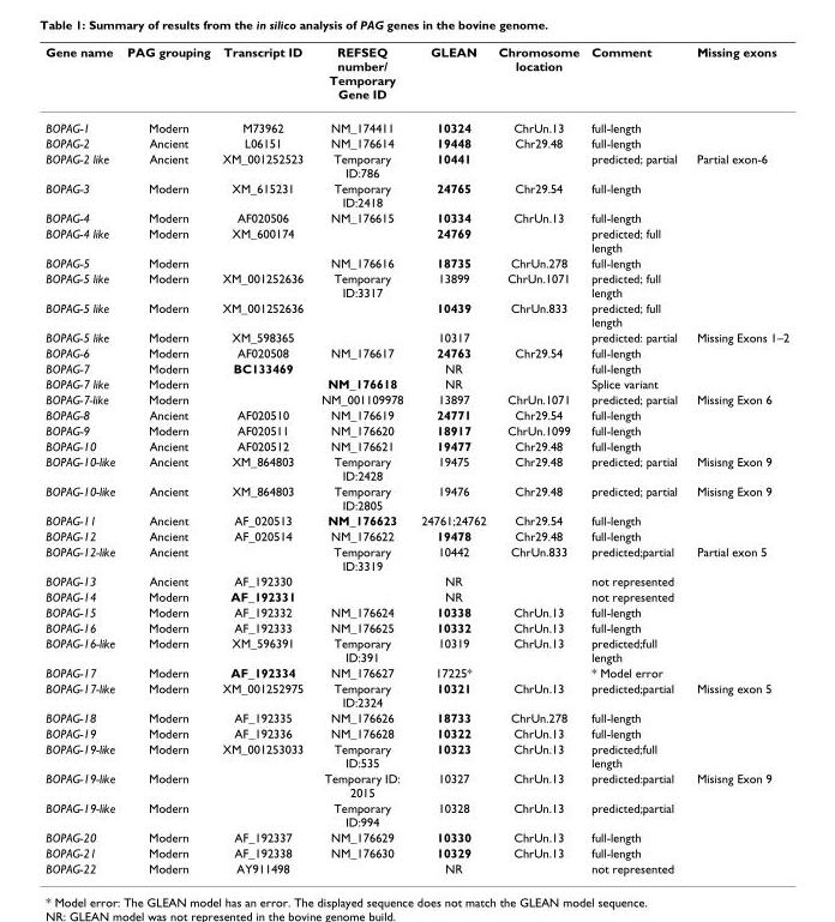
<table><thead><tr><td>Gene name</td><td>PAG grouping</td><td>Transcript ID</td><td>REFSEQ number/ Temporary Gene ID</td><td>GLEAN</td><td>Chromosome location</td><td>Comment</td><td>Missing exons</td></tr></thead><tbody><tr><td>BOPAG-1</td><td>Modern</td><td>M73962</td><td>NM_174411</td><td>10324</td><td>ChrUn.13</td><td>full-length</td><td></td></tr><tr><td>BOPAG-2</td><td>Ancient</td><td>L06151</td><td>NM_176614</td><td>19448</td><td>Chr29.48</td><td>full-length</td><td></td></tr><tr><td>BOPAG-2 like</td><td>Ancient</td><td>XM_001252523</td><td>Temporary ID:786</td><td>10441</td><td></td><td>predicted; partial</td><td>Partial exon-6</td></tr><tr><td>BOPAG-3</td><td>Modern</td><td>XM_615231</td><td>Temporary ID:2418</td><td>24765</td><td>Chr29.54</td><td>full-length</td><td></td></tr><tr><td>BOPAG-4</td><td>Modern</td><td>AF020506</td><td>NM_176615</td><td>10334</td><td>ChrUn.13</td><td>full-length</td><td></td></tr><tr><td>BOPAG-4 like</td><td>Modern</td><td>XM_600174</td><td></td><td>24769</td><td></td><td>predicted; full length</td><td></td></tr><tr><td>BOPAG-5</td><td>Modern</td><td></td><td>NM_176616</td><td>18735</td><td>ChrUn.278</td><td>full-length</td><td></td></tr><tr><td>BOPAG-5 like</td><td>Modern</td><td>XM_001252636</td><td>Temporary ID:3317</td><td>13899</td><td>ChrUn.1071</td><td>predicted; full length</td><td></td></tr><tr><td>BOPAG-5 like</td><td>Modern</td><td>XM_001252636</td><td></td><td>10439</td><td>ChrUn.833</td><td>predicted; full length</td><td></td></tr><tr><td>BOPAG-5 like</td><td>Modern</td><td>XM_598365</td><td></td><td>10317</td><td></td><td>predicted: partial</td><td>Missing Exons 1–2</td></tr><tr><td>BOPAG-6</td><td>Modern</td><td>AF020508</td><td>NM_176617</td><td>24763</td><td>Chr29.54</td><td>full-length</td><td></td></tr><tr><td>BOPAG-7</td><td>Modern</td><td>BC133469</td><td></td><td>NR</td><td></td><td>full-length</td><td></td></tr><tr><td>BOPAG-7 like</td><td>Modern</td><td></td><td>NM_176618</td><td>NR</td><td></td><td>Splice variant</td><td></td></tr><tr><td>BOPAG-7-like</td><td>Modern</td><td></td><td>NM_001109978</td><td>13897</td><td>ChrUn.1071</td><td>predicted; partial</td><td>Missing Exon 6</td></tr><tr><td>BOPAG-8</td><td>Ancient</td><td>AF020510</td><td>NM_176619</td><td>24771</td><td>Chr29.54</td><td>full-length</td><td></td></tr><tr><td>BOPAG-9</td><td>Modern</td><td>AF020511</td><td>NM_176620</td><td>18917</td><td>ChrUn.1099</td><td>full-length</td><td></td></tr><tr><td>BOPAG-10</td><td>Ancient</td><td>AF020512</td><td>NM_176621</td><td>19477</td><td>Chr29.48</td><td>full-length</td><td></td></tr><tr><td>BOPAG-10-like</td><td>Ancient</td><td>XM_864803</td><td>Temporary ID:2428</td><td>19475</td><td>Chr29.48</td><td>predicted; partial</td><td>Misisng Exon 9</td></tr><tr><td>BOPAG-10-like</td><td>Ancient</td><td>XM_864803</td><td>Temporary ID:2805</td><td>19476</td><td>Chr29.48</td><td>predicted; partial</td><td>Misisng Exon 9</td></tr><tr><td>BOPAG-11</td><td>Ancient</td><td>AF_020513</td><td>NM_176623</td><td>24761;24762</td><td>Chr29.54</td><td>full-length</td><td></td></tr><tr><td>BOPAG-12</td><td>Ancient</td><td>AF_020514</td><td>NM_176622</td><td>19478</td><td>Chr29.48</td><td>full-length</td><td></td></tr><tr><td>BOPAG-12-like</td><td>Ancient</td><td></td><td>Temporary ID:3319</td><td>10442</td><td>ChrUn.833</td><td>predicted;partial</td><td>Partial exon 5</td></tr><tr><td>BOPAG-13</td><td>Ancient</td><td>AF_192330</td><td></td><td>NR</td><td></td><td>not represented</td><td></td></tr><tr><td>BOPAG-14</td><td>Modern</td><td>AF_192331</td><td></td><td>NR</td><td></td><td>not represented</td><td></td></tr><tr><td>BOPAG-15</td><td>Modern</td><td>AF_192332</td><td>NM_176624</td><td>10338</td><td>ChrUn.13</td><td>full-length</td><td></td></tr><tr><td>BOPAG-16</td><td>Modern</td><td>AF_192333</td><td>NM_176625</td><td>10332</td><td>ChrUn.13</td><td>full-length</td><td></td></tr><tr><td>BOPAG-16-like</td><td>Modern</td><td>XM_596391</td><td>Temporary ID:391</td><td>10319</td><td>ChrUn.13</td><td>predicted;full length</td><td></td></tr><tr><td>BOPAG-17</td><td>Modern</td><td>AF_192334</td><td>NM_176627</td><td>17225*</td><td></td><td>* Model error</td><td></td></tr><tr><td>BOPAG-17-like</td><td>Modern</td><td>XM_001252975</td><td>Temporary ID:2324</td><td>10321</td><td>ChrUn.13</td><td>predicted;partial</td><td>Missing exon 5</td></tr><tr><td>BOPAG-18</td><td>Modern</td><td>AF_192335</td><td>NM_176626</td><td>18733</td><td>ChrUn.278</td><td>full-length</td><td></td></tr><tr><td>BOPAG-19</td><td>Modern</td><td>AF_192336</td><td>NM_176628</td><td>10322</td><td>ChrUn.13</td><td>full-length</td><td></td></tr><tr><td>BOPAG-19-like</td><td>Modern</td><td>XM_001253033</td><td>Temporary ID:535</td><td>10323</td><td>ChrUn.13</td><td>predicted;full length</td><td></td></tr><tr><td>BOPAG-19-like</td><td>Modern</td><td></td><td>Temporary ID: 2015</td><td>10327</td><td>ChrUn.13</td><td>predicted:partial</td><td>Misisng Exon 9</td></tr><tr><td>BOPAG-19-like</td><td>Modern</td><td></td><td>Temporary ID:994</td><td>10328</td><td>ChrUn.13</td><td>predicted;partial</td><td></td></tr><tr><td>BOPAG-20</td><td>Modern</td><td>AF_192337</td><td>NM_176629</td><td>10330</td><td>ChrUn.13</td><td>full-length</td><td></td></tr><tr><td>BOPAG-21</td><td>Modern</td><td>AF_192338</td><td>NM_176630</td><td>10329</td><td>ChrUn.13</td><td>full-length</td><td></td></tr><tr><td>BOPAG-22</td><td>Modern</td><td>AY911498</td><td></td><td>NR</td><td></td><td>not represented</td><td></td></tr></tbody></table>